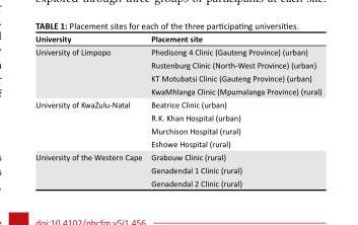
<table><thead><tr><td>University</td><td>Placement site</td></tr></thead><tbody><tr><td rowspan="4">University of Limpopo</td><td>Phedisong 4 Clinic (Gauteng Province) (urban)</td></tr><tr><td>Rustenburg Clinic (North-West Province) (urban)</td></tr><tr><td>KT Motubatsi Clinic (Gauteng Province) (urban)</td></tr><tr><td>KwaMhlanga Clinic (Mpumalanga Province) (rural)</td></tr><tr><td rowspan="4">University of KwaZulu-Natal</td><td>Beatrice Clinic (urban)</td></tr><tr><td>R.K. Khan Hospital (urban)</td></tr><tr><td>Murchison Hospital (rural)</td></tr><tr><td>Eshowe Hospital (rural)</td></tr><tr><td rowspan="3">University of the Western Cape</td><td>Grabouw Clinic (rural)</td></tr><tr><td>Genadendal 1 Clinic (rural)</td></tr><tr><td>Genadendal 2 Clinic (rural)</td></tr></tbody></table>